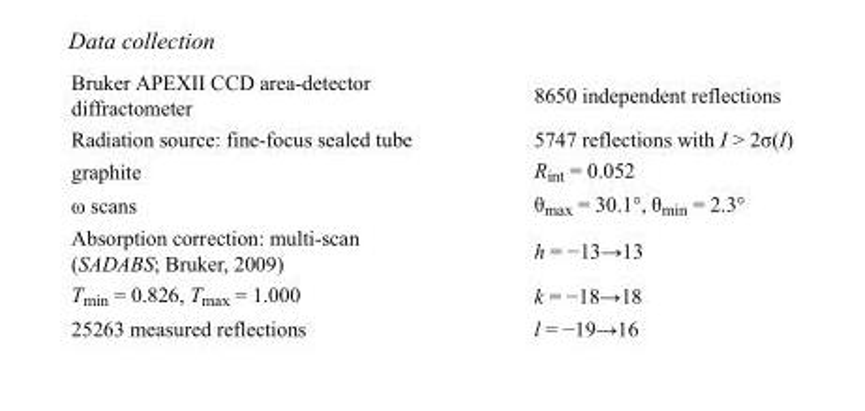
<table><tbody><tr><td>Bruker APEXII CCD area-detector diffractometer</td><td>8650 independent reflections</td></tr><tr><td>Radiation source: fine-focus sealed tube</td><td>5747 reflections with I &gt; 2σ(I)</td></tr><tr><td>graphite</td><td>R<sub>int</sub> = 0.052</td></tr><tr><td>ω scans</td><td>θ<sub>max</sub> = 30.1°, θ<sub>min</sub> = 2.3°</td></tr><tr><td>Absorption correction: multi-scan (SADABS; Bruker, 2009)</td><td>h = −13→13</td></tr><tr><td>T<sub>min</sub> = 0.826, T<sub>max</sub> = 1.000</td><td>k = −18→18</td></tr><tr><td>25263 measured reflections</td><td>l = −19→16</td></tr></tbody></table>